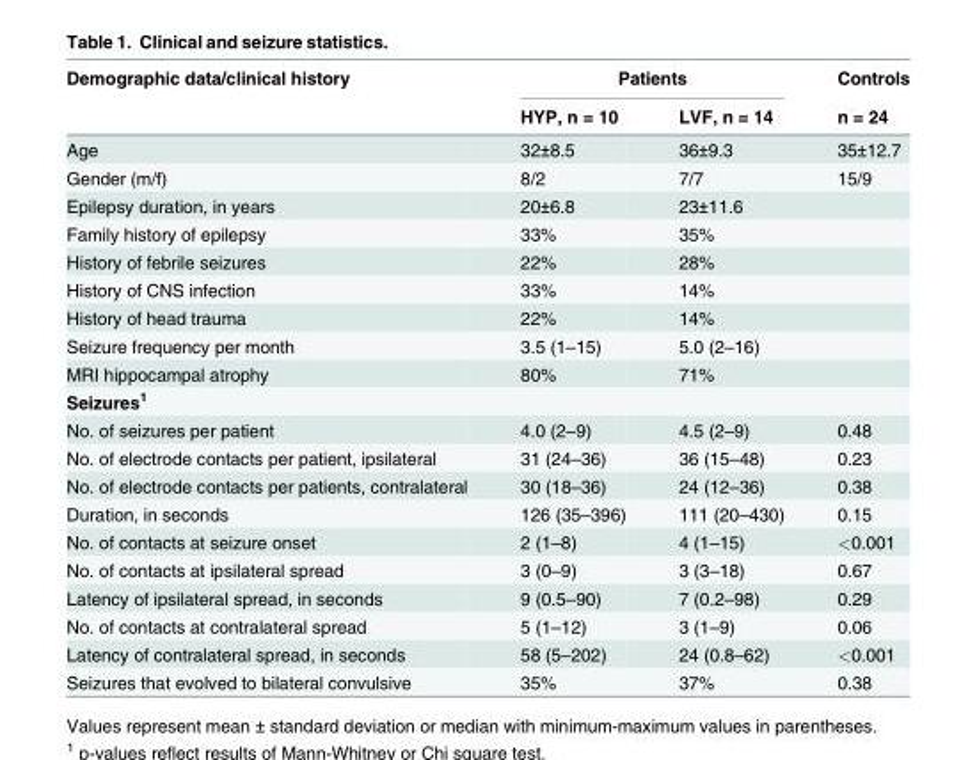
<table><thead><tr><td rowspan="2">Demographic data/clinical history</td><td colspan="2">Patients</td><td rowspan="2">Controls n = 24</td></tr><tr><td>HYP, n = 10</td><td>LVF, n = 14</td></tr></thead><tbody><tr><td>Age</td><td>32±8.5</td><td>36±9.3</td><td>35±12.7</td></tr><tr><td>Gender (m/f)</td><td>8/2</td><td>7/7</td><td>15/9</td></tr><tr><td>Epilepsy duration, in years</td><td>20±6.8</td><td>23±11.6</td><td></td></tr><tr><td>Family history of epilepsy</td><td>33%</td><td>35%</td><td></td></tr><tr><td>History of febrile seizures</td><td>22%</td><td>28%</td><td></td></tr><tr><td>History of CNS infection</td><td>33%</td><td>14%</td><td></td></tr><tr><td>History of head trauma</td><td>22%</td><td>14%</td><td></td></tr><tr><td>Seizure frequency per month</td><td>3.5 (1–15)</td><td>5.0 (2–16)</td><td></td></tr><tr><td>MRI hippocampal atrophy</td><td>80%</td><td>71%</td><td></td></tr><tr><td colspan="4">Seizures<sup>1</sup></td></tr><tr><td>No. of seizures per patient</td><td>4.0 (2–9)</td><td>4.5 (2–9)</td><td>0.48</td></tr><tr><td>No. of electrode contacts per patient, ipsilateral</td><td>31 (24–36)</td><td>36 (15–48)</td><td>0.23</td></tr><tr><td>No. of electrode contacts per patients, contralateral</td><td>30 (18–36)</td><td>24 (12–36)</td><td>0.38</td></tr><tr><td>Duration, in seconds</td><td>126 (35–396)</td><td>111 (20–430)</td><td>0.15</td></tr><tr><td>No. of contacts at seizure onset</td><td>2 (1–8)</td><td>4 (1–15)</td><td>&lt;0.001</td></tr><tr><td>No. of contacts at ipsilateral spread</td><td>3 (0–9)</td><td>3 (3–18)</td><td>0.67</td></tr><tr><td>Latency of ipsilateral spread, in seconds</td><td>9 (0.5–90)</td><td>7 (0.2–98)</td><td>0.29</td></tr><tr><td>No. of contacts at contralateral spread</td><td>5 (1–12)</td><td>3 (1–9)</td><td>0.06</td></tr><tr><td>Latency of contralateral spread, in seconds</td><td>58 (5–202)</td><td>24 (0.8–62)</td><td>&lt;0.001</td></tr><tr><td>Seizures that evolved to bilateral convulsive</td><td>35%</td><td>37%</td><td>0.38</td></tr></tbody></table>